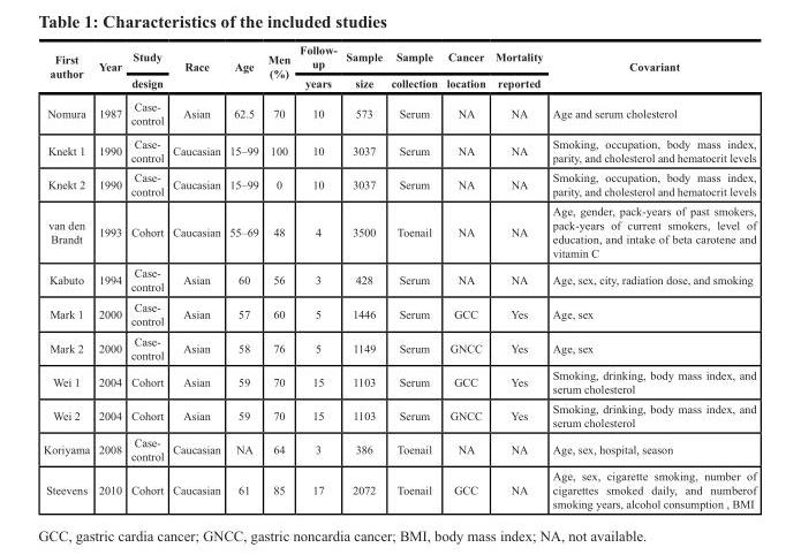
<table><thead><tr><td rowspan="2">First author</td><td rowspan="2">Year</td><td rowspan="2">Study design</td><td rowspan="2">Race</td><td rowspan="2">Age</td><td rowspan="2">Men (%)</td><td rowspan="2">Follow- up years</td><td rowspan="2">Sample size</td><td rowspan="2">Sample collection</td><td rowspan="2">Cancer location</td><td rowspan="2">Mortality reported</td><td rowspan="2">Covariant</td></tr><tr></tr></thead><tbody><tr><td>Nomura</td><td>1987</td><td>Case- control</td><td>Asian</td><td>62.5</td><td>70</td><td>10</td><td>573</td><td>Serum</td><td>NA</td><td>NA</td><td>Age and serum cholesterol</td></tr><tr><td>Knekt 1</td><td>1990</td><td>Case- control</td><td>Caucasian</td><td>15–99</td><td>100</td><td>10</td><td>3037</td><td>Serum</td><td>NA</td><td>NA</td><td>Smoking, occupation, body mass index, parity, and cholesterol and hematocrit levels</td></tr><tr><td>Knekt 2</td><td>1990</td><td>Case- control</td><td>Caucasian</td><td>15–99</td><td>0</td><td>10</td><td>3037</td><td>Serum</td><td>NA</td><td>NA</td><td>Smoking, occupation, body mass index, parity, and cholesterol and hematocrit levels</td></tr><tr><td>van den Brandt</td><td>1993</td><td>Cohort</td><td>Caucasian</td><td>55–69</td><td>48</td><td>4</td><td>3500</td><td>Toenail</td><td>NA</td><td>NA</td><td>Age, gender, pack-years of past smokers, pack-years of current smokers, level of education, and intake of beta carotene and vitamin C</td></tr><tr><td>Kabuto</td><td>1994</td><td>Case- control</td><td>Asian</td><td>60</td><td>56</td><td>3</td><td>428</td><td>Serum</td><td>NA</td><td>NA</td><td>Age, sex, city, radiation dose, and smoking</td></tr><tr><td>Mark 1</td><td>2000</td><td>Case- control</td><td>Asian</td><td>57</td><td>60</td><td>5</td><td>1446</td><td>Serum</td><td>GCC</td><td>Yes</td><td>Age, sex</td></tr><tr><td>Mark 2</td><td>2000</td><td>Case- control</td><td>Asian</td><td>58</td><td>76</td><td>5</td><td>1149</td><td>Serum</td><td>GNCC</td><td>Yes</td><td>Age, sex</td></tr><tr><td>Wei 1</td><td>2004</td><td>Cohort</td><td>Asian</td><td>59</td><td>70</td><td>15</td><td>1103</td><td>Serum</td><td>GCC</td><td>Yes</td><td>Smoking, drinking, body mass index, and serum cholesterol</td></tr><tr><td>Wei 2</td><td>2004</td><td>Cohort</td><td>Asian</td><td>59</td><td>70</td><td>15</td><td>1103</td><td>Serum</td><td>GNCC</td><td>Yes</td><td>Smoking, drinking, body mass index, and serum cholesterol</td></tr><tr><td>Koriyama</td><td>2008</td><td>Case- control</td><td>Caucasian</td><td>NA</td><td>64</td><td>3</td><td>386</td><td>Toenail</td><td>NA</td><td>NA</td><td>Age, sex, hospital, season</td></tr><tr><td>Steevens</td><td>2010</td><td>Cohort</td><td>Caucasian</td><td>61</td><td>85</td><td>17</td><td>2072</td><td>Toenail</td><td>GCC</td><td>NA</td><td>Age, sex, cigarette smoking, number of cigarettes smoked daily, and numberof smoking years, alcohol consumption , BMI</td></tr></tbody></table>